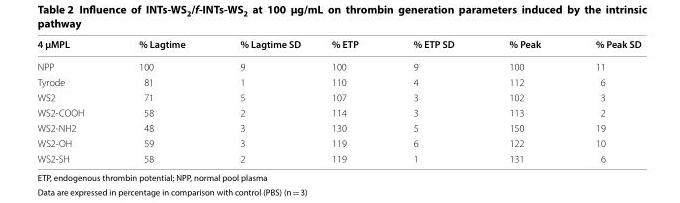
<table><thead><tr><td>4 µMPL</td><td>% Lagtime</td><td>% Lagtime SD</td><td>% ETP</td><td>% ETP SD</td><td>% Peak</td><td>% Peak SD</td></tr></thead><tbody><tr><td>NPP</td><td>100</td><td>9</td><td>100</td><td>9</td><td>100</td><td>11</td></tr><tr><td>Tyrode</td><td>81</td><td>1</td><td>110</td><td>4</td><td>112</td><td>6</td></tr><tr><td>WS2</td><td>71</td><td>5</td><td>107</td><td>3</td><td>102</td><td>3</td></tr><tr><td>WS2‑COOH</td><td>58</td><td>2</td><td>114</td><td>3</td><td>113</td><td>2</td></tr><tr><td>WS2‑NH2</td><td>48</td><td>3</td><td>130</td><td>5</td><td>150</td><td>19</td></tr><tr><td>WS2‑OH</td><td>59</td><td>3</td><td>119</td><td>6</td><td>122</td><td>10</td></tr><tr><td>WS2‑SH</td><td>58</td><td>2</td><td>119</td><td>1</td><td>131</td><td>6</td></tr></tbody></table>